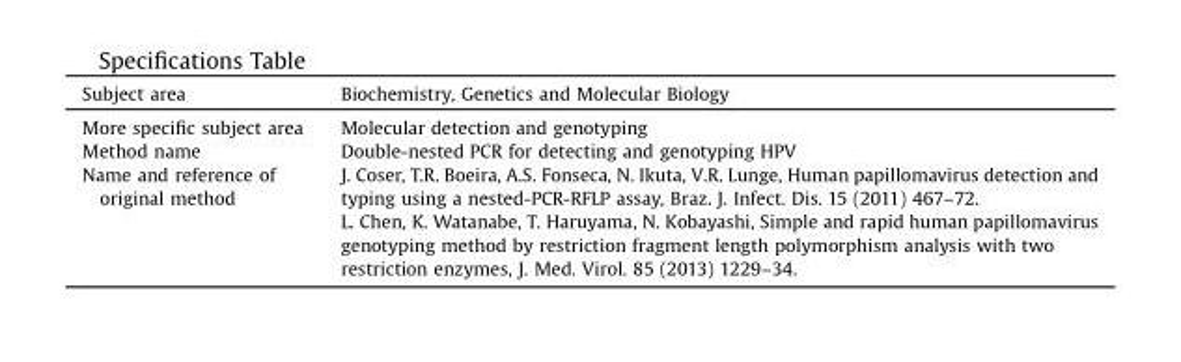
<table><thead><tr><td>Subject area</td><td>Biochemistry, Genetics and Molecular Biology</td></tr></thead><tbody><tr><td>More specific subject area</td><td>Molecular detection and genotyping</td></tr><tr><td>Method name</td><td>Double-nested PCR for detecting and genotyping HPV</td></tr><tr><td>Name and reference of original method</td><td>J. Coser, T.R. Boeira, A.S. Fonseca, N. Ikuta, V.R. Lunge, Human papillomavirus detection and typing using a nested-PCR-RFLP assay, Braz. J. Infect. Dis. 15 (2011) 467–72. L. Chen, K. Watanabe, T. Haruyama, N. Kobayashi, Simple and rapid human papillomavirus genotyping method by restriction fragment length polymorphism analysis with two restriction enzymes, J. Med. Virol. 85 (2013) 1229–34.</td></tr></tbody></table>